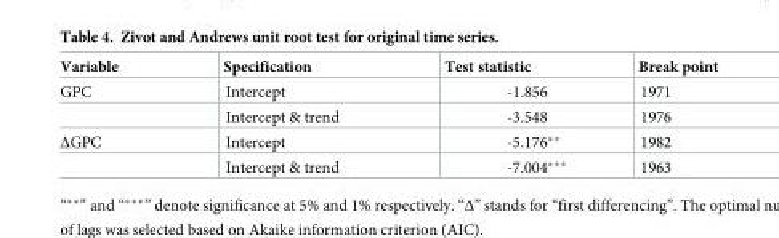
<table><thead><tr><td>Variable</td><td>Specification</td><td>Test statistic</td><td>Break point</td></tr></thead><tbody><tr><td rowspan="2">GPC</td><td>Intercept</td><td>-1.856</td><td>1971</td></tr><tr><td>Intercept &amp; trend</td><td>-3.548</td><td>1976</td></tr><tr><td rowspan="2">ΔGPC</td><td>Intercept</td><td>-5.176**</td><td>1982</td></tr><tr><td>Intercept &amp; trend</td><td>-7.004***</td><td>1963</td></tr></tbody></table>